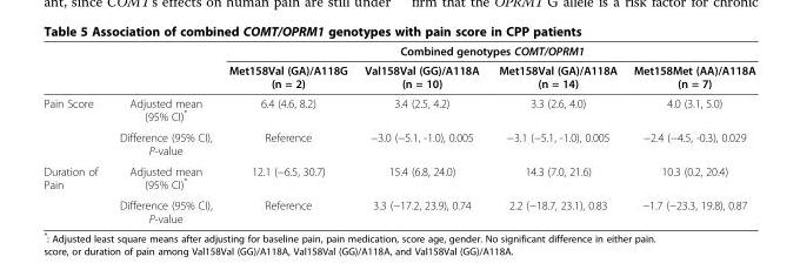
<table><thead><tr><td rowspan="2"></td><td rowspan="2"></td><td colspan="4">Combined genotypes COMT/OPRM1</td></tr><tr><td>Met158Val (GA)/A118G (n = 2)</td><td>Val158Val (GG)/A118A (n = 10)</td><td>Met158Val (GA)/A118A (n = 14)</td><td>Met158Met (AA)/A118A (n = 7)</td></tr></thead><tbody><tr><td rowspan="2">Pain Score</td><td>Adjusted mean (95% CI)*</td><td>6.4 (4.6, 8.2)</td><td>3.4 (2.5, 4.2)</td><td>3.3 (2.6, 4.0)</td><td>4.0 (3.1, 5.0)</td></tr><tr><td>Difference (95% CI), P-value</td><td>Reference</td><td>−3.0 (−5.1, -1.0), 0.005</td><td>−3.1 (−5.1, -1.0), 0.005</td><td>−2.4 (−4.5, -0.3), 0.029</td></tr><tr><td rowspan="2">Duration of Pain</td><td>Adjusted mean (95% CI)*</td><td>12.1 (−6.5, 30.7)</td><td>15.4 (6.8, 24.0)</td><td>14.3 (7.0, 21.6)</td><td>10.3 (0.2, 20.4)</td></tr><tr><td>Difference (95% CI), P-value</td><td>Reference</td><td>3.3 (−17.2, 23.9), 0.74</td><td>2.2 (−18.7, 23.1), 0.83</td><td>−1.7 (−23.3, 19.8), 0.87</td></tr></tbody></table>